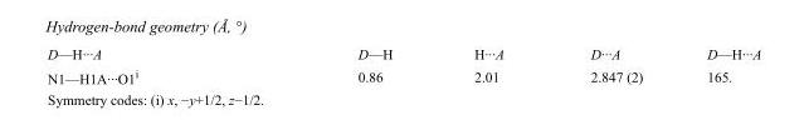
<table><tbody><tr><td>D—H···A</td><td>D—H</td><td>H···A</td><td>D···A</td><td>D—H···A</td></tr><tr><td>N1—H1A···O1<sup>i</sup></td><td>0.86</td><td>2.01</td><td>2.847 (2)</td><td>165.</td></tr></tbody></table>